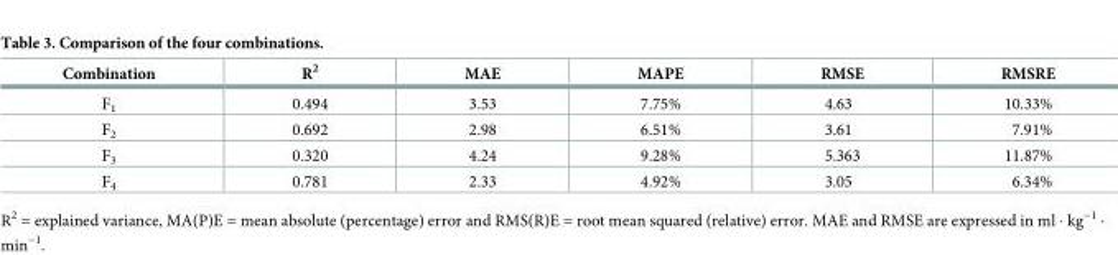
<table><thead><tr><td>Combination</td><td>R<sup>2</sup></td><td>MAE</td><td>MAPE</td><td>RMSE</td><td>RMSRE</td></tr></thead><tbody><tr><td>F<sub>1</sub></td><td>0.494</td><td>3.53</td><td>7.75%</td><td>4.63</td><td>10.33%</td></tr><tr><td>F<sub>2</sub></td><td>0.692</td><td>2.98</td><td>6.51%</td><td>3.61</td><td>7.91%</td></tr><tr><td>F<sub>3</sub></td><td>0.320</td><td>4.24</td><td>9.28%</td><td>5.363</td><td>11.87%</td></tr><tr><td>F<sub>4</sub></td><td>0.781</td><td>2.33</td><td>4.92%</td><td>3.05</td><td>6.34%</td></tr></tbody></table>